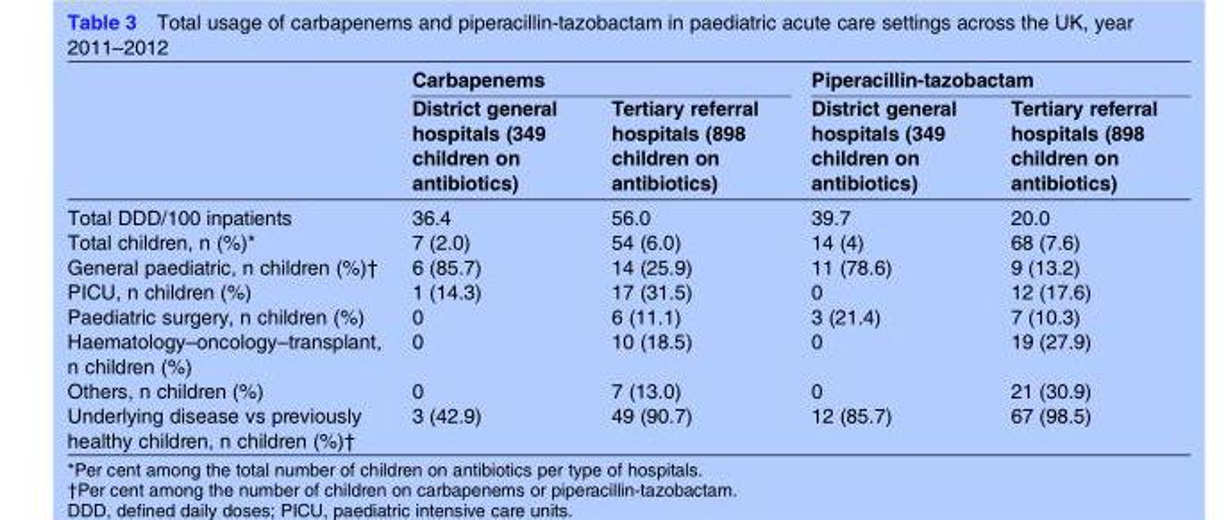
<table><thead><tr><td rowspan="2"></td><td colspan="2">Carbapenems</td><td colspan="2">Piperacillin-tazobactam</td></tr><tr><td>District general hospitals (349 children on antibiotics)</td><td>Tertiary referral hospitals (898 children on antibiotics)</td><td>District general hospitals (349 children on antibiotics)</td><td>Tertiary referral hospitals (898 children on antibiotics)</td></tr></thead><tbody><tr><td>Total DDD/100 inpatients</td><td>36.4</td><td>56.0</td><td>39.7</td><td>20.0</td></tr><tr><td>Total children, n (%)*</td><td>7 (2.0)</td><td>54 (6.0)</td><td>14 (4)</td><td>68 (7.6)</td></tr><tr><td>General paediatric, n children (%)†</td><td>6 (85.7)</td><td>14 (25.9)</td><td>11 (78.6)</td><td>9 (13.2)</td></tr><tr><td>PICU, n children (%)</td><td>1 (14.3)</td><td>17 (31.5)</td><td>0</td><td>12 (17.6)</td></tr><tr><td>Paediatric surgery, n children (%)</td><td>0</td><td>6 (11.1)</td><td>3 (21.4)</td><td>7 (10.3)</td></tr><tr><td>Haematology–oncology–transplant, n children (%)</td><td>0</td><td>10 (18.5)</td><td>0</td><td>19 (27.9)</td></tr><tr><td>Others, n children (%)</td><td>0</td><td>7 (13.0)</td><td>0</td><td>21 (30.9)</td></tr><tr><td>Underlying disease vs previously healthy children, n children (%)†</td><td>3 (42.9)</td><td>49 (90.7)</td><td>12 (85.7)</td><td>67 (98.5)</td></tr></tbody></table>